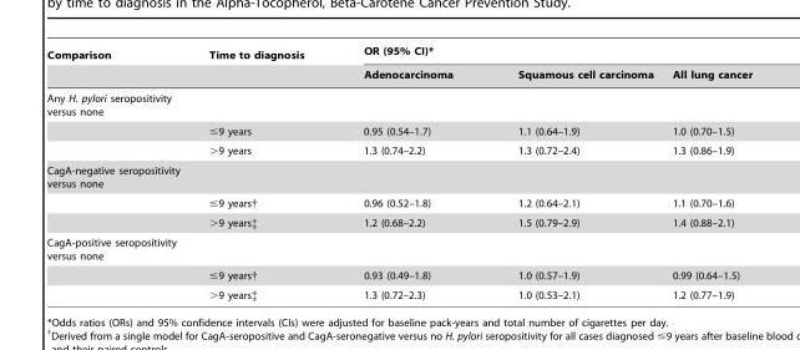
<table><thead><tr><td rowspan="2">Comparison</td><td rowspan="2">Time to diagnosis</td><td colspan="3">OR (95% CI)*</td></tr><tr><td>Adenocarcinoma</td><td>Squamous cell carcinoma</td><td>All lung cancer</td></tr></thead><tbody><tr><td colspan="5">Any H. pylori seropositivity versus none</td></tr><tr><td></td><td>≤9 years</td><td>0.95 (0.54–1.7)</td><td>1.1 (0.64–1.9)</td><td>1.0 (0.70–1.5)</td></tr><tr><td></td><td>&gt;9 years</td><td>1.3 (0.74–2.2)</td><td>1.3 (0.72–2.4)</td><td>1.3 (0.86–1.9)</td></tr><tr><td colspan="5">CagA-negative seropositivity versus none</td></tr><tr><td></td><td>≤9 years†</td><td>0.96 (0.52–1.8)</td><td>1.2 (0.64–2.1)</td><td>1.1 (0.70–1.6)</td></tr><tr><td></td><td>&gt;9 years‡</td><td>1.2 (0.68–2.2)</td><td>1.5 (0.79–2.9)</td><td>1.4 (0.88–2.1)</td></tr><tr><td colspan="5">CagA-positive seropositivity versus none</td></tr><tr><td></td><td>≤9 years†</td><td>0.93 (0.49–1.8)</td><td>1.0 (0.57–1.9)</td><td>0.99 (0.64–1.5)</td></tr><tr><td></td><td>&gt;9 years‡</td><td>1.3 (0.72–2.3)</td><td>1.0 (0.53–2.1)</td><td>1.2 (0.77–1.9)</td></tr></tbody></table>